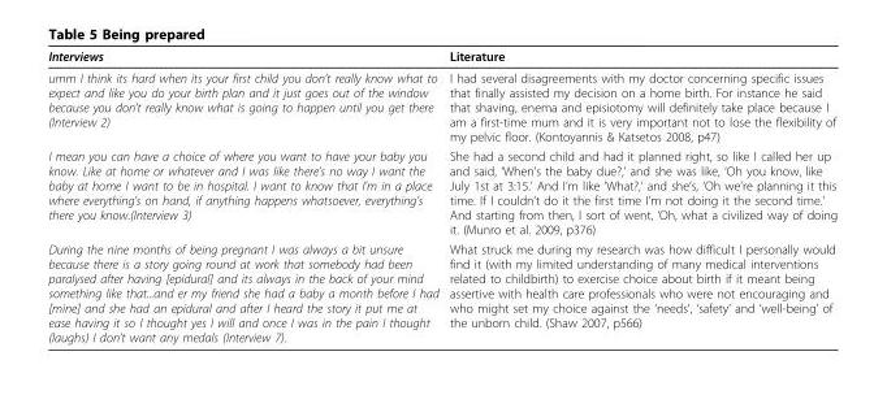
<table><thead><tr><td>Interviews</td><td>Literature</td></tr></thead><tbody><tr><td>umm I think its hard when its your first child you don’t really know what to expect and like you do your birth plan and it just goes out of the window because you don’t really know what is going to happen until you get there (Interview 2)</td><td>I had several disagreements with my doctor concerning specific issues that finally assisted my decision on a home birth. For instance he said that shaving, enema and episiotomy will definitely take place because I am a first-time mum and it is very important not to lose the flexibility of my pelvic floor. (Kontoyannis &amp; Katsetos 2008, p47)</td></tr><tr><td>I mean you can have a choice of where you want to have your baby you know. Like at home or whatever and I was like there’s no way I want the baby at home I want to be in hospital. I want to know that I’m in a place where everything’s on hand, if anything happens whatsoever, everything’s there you know.(Interview 3)</td><td>She had a second child and had it planned right, so like I called her up and said, ‘When’s the baby due?,’ and she was like, ‘Oh you know, like July 1st at 3:15.’ And I’m like ‘What?,’ and she’s, ‘Oh we’re planning it this time. If I couldn’t do it the first time I’m not doing it the second time.’ And starting from then, I sort of went, ‘Oh, what a civilized way of doing it. (Munro et al. 2009, p376)</td></tr><tr><td>During the nine months of being pregnant I was always a bit unsure because there is a story going round at work that somebody had been paralysed after having [epidural] and its always in the back of your mind something like that...and er my friend she had a baby a month before I had [mine] and she had an epidural and after I heard the story it put me at ease having it so I thought yes I will and once I was in the pain I thought (laughs) I don’t want any medals (Interview 7).</td><td>What struck me during my research was how difficult I personally would find it (with my limited understanding of many medical interventions related to childbirth) to exercise choice about birth if it meant being assertive with health care professionals who were not encouraging and who might set my choice against the ‘needs’, ‘safety’ and ‘well-being’ of the unborn child. (Shaw 2007, p566)</td></tr></tbody></table>